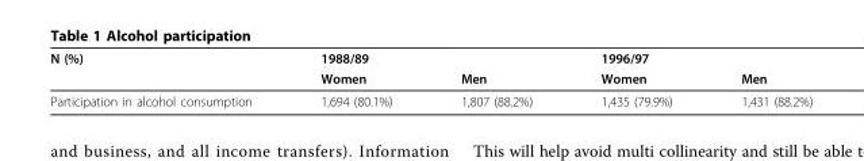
<table><thead><tr><td rowspan="2">N (%)</td><td rowspan="2">1988/89 Women</td><td rowspan="2">Men</td><td rowspan="2">1996/97 Women</td><td rowspan="2">Men</td></tr><tr></tr></thead><tbody><tr><td>Participation in alcohol consumption</td><td>1,694 (80.1%)</td><td>1,807 (88.2%)</td><td>1,435 (79.9%)</td><td>1,431 (88.2%)</td></tr></tbody></table>